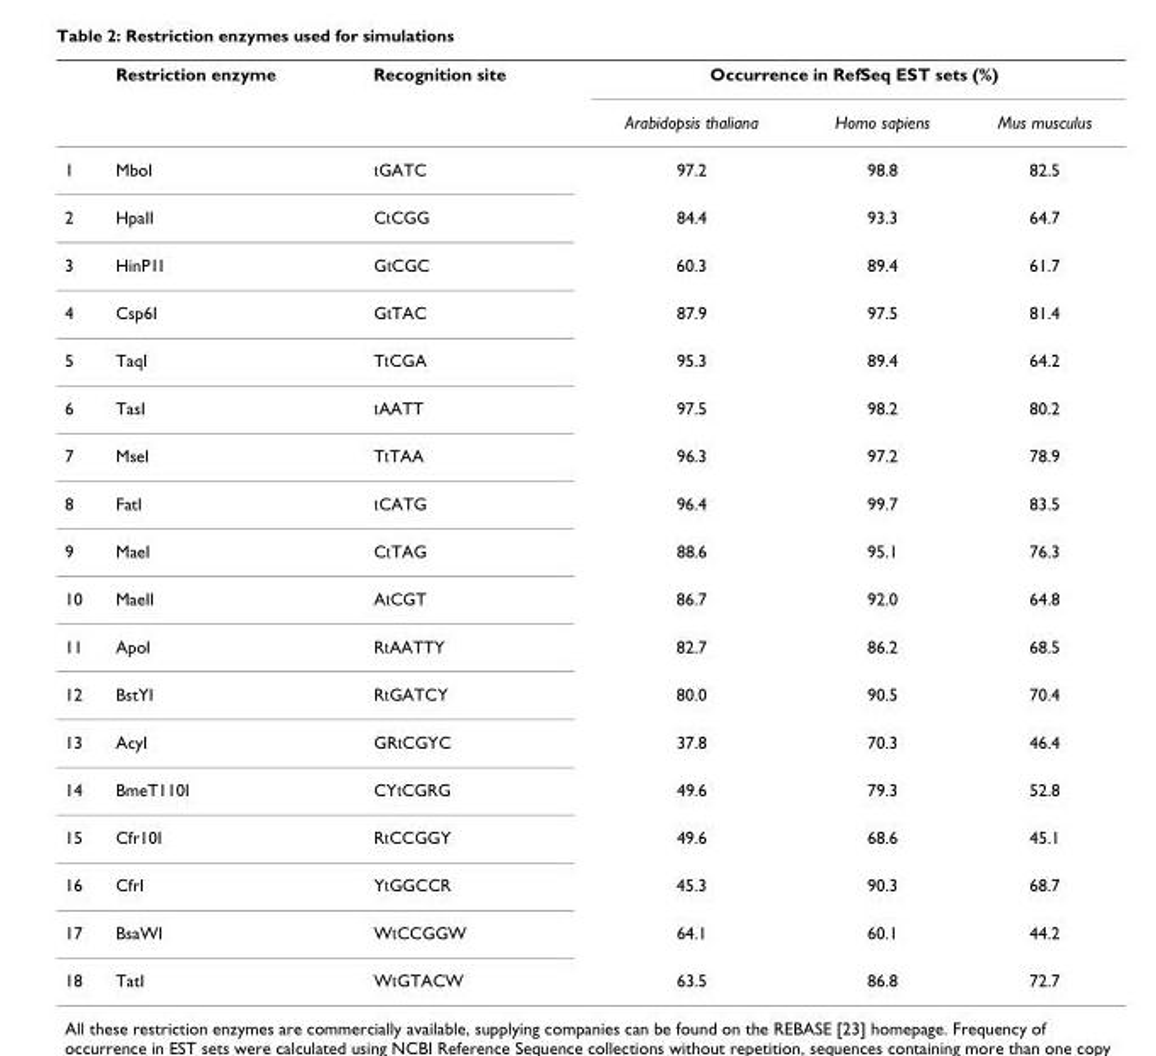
<table><thead><tr><td rowspan="2"></td><td rowspan="2">Restriction enzyme</td><td rowspan="2">Recognition site</td><td colspan="3">Occurrence in RefSeq EST sets (%)</td></tr><tr><td>Arabidopsis thaliana</td><td>Homo sapiens</td><td>Mus musculus</td></tr></thead><tbody><tr><td>1</td><td>MboI</td><td>▼GATC</td><td>97.2</td><td>98.8</td><td>82.5</td></tr><tr><td>2</td><td>HpaII</td><td>C▼CGG</td><td>84.4</td><td>93.3</td><td>64.7</td></tr><tr><td>3</td><td>HinP1I</td><td>G▼CGC</td><td>60.3</td><td>89.4</td><td>61.7</td></tr><tr><td>4</td><td>Csp6I</td><td>G▼TAC</td><td>87.9</td><td>97.5</td><td>81.4</td></tr><tr><td>5</td><td>TaqI</td><td>T▼CGA</td><td>95.3</td><td>89.4</td><td>64.2</td></tr><tr><td>6</td><td>TasI</td><td>▼AATT</td><td>97.5</td><td>98.2</td><td>80.2</td></tr><tr><td>7</td><td>MseI</td><td>T▼TAA</td><td>96.3</td><td>97.2</td><td>78.9</td></tr><tr><td>8</td><td>FatI</td><td>▼CATG</td><td>96.4</td><td>99.7</td><td>83.5</td></tr><tr><td>9</td><td>MaeI</td><td>C▼TAG</td><td>88.6</td><td>95.1</td><td>76.3</td></tr><tr><td>10</td><td>MaeII</td><td>A▼CGT</td><td>86.7</td><td>92.0</td><td>64.8</td></tr><tr><td>11</td><td>ApoI</td><td>R▼AATTY</td><td>82.7</td><td>86.2</td><td>68.5</td></tr><tr><td>12</td><td>BstYI</td><td>R▼GATCY</td><td>80.0</td><td>90.5</td><td>70.4</td></tr><tr><td>13</td><td>AcyI</td><td>GR▼CGYC</td><td>37.8</td><td>70.3</td><td>46.4</td></tr><tr><td>14</td><td>BmeT110I</td><td>CY▼CGRG</td><td>49.6</td><td>79.3</td><td>52.8</td></tr><tr><td>15</td><td>Cfr10I</td><td>R▼CCGGY</td><td>49.6</td><td>68.6</td><td>45.1</td></tr><tr><td>16</td><td>CfrI</td><td>Y▼GGCCR</td><td>45.3</td><td>90.3</td><td>68.7</td></tr><tr><td>17</td><td>BsaWI</td><td>W▼CCGGW</td><td>64.1</td><td>60.1</td><td>44.2</td></tr><tr><td>18</td><td>TatI</td><td>W▼GTACW</td><td>63.5</td><td>86.8</td><td>72.7</td></tr></tbody></table>